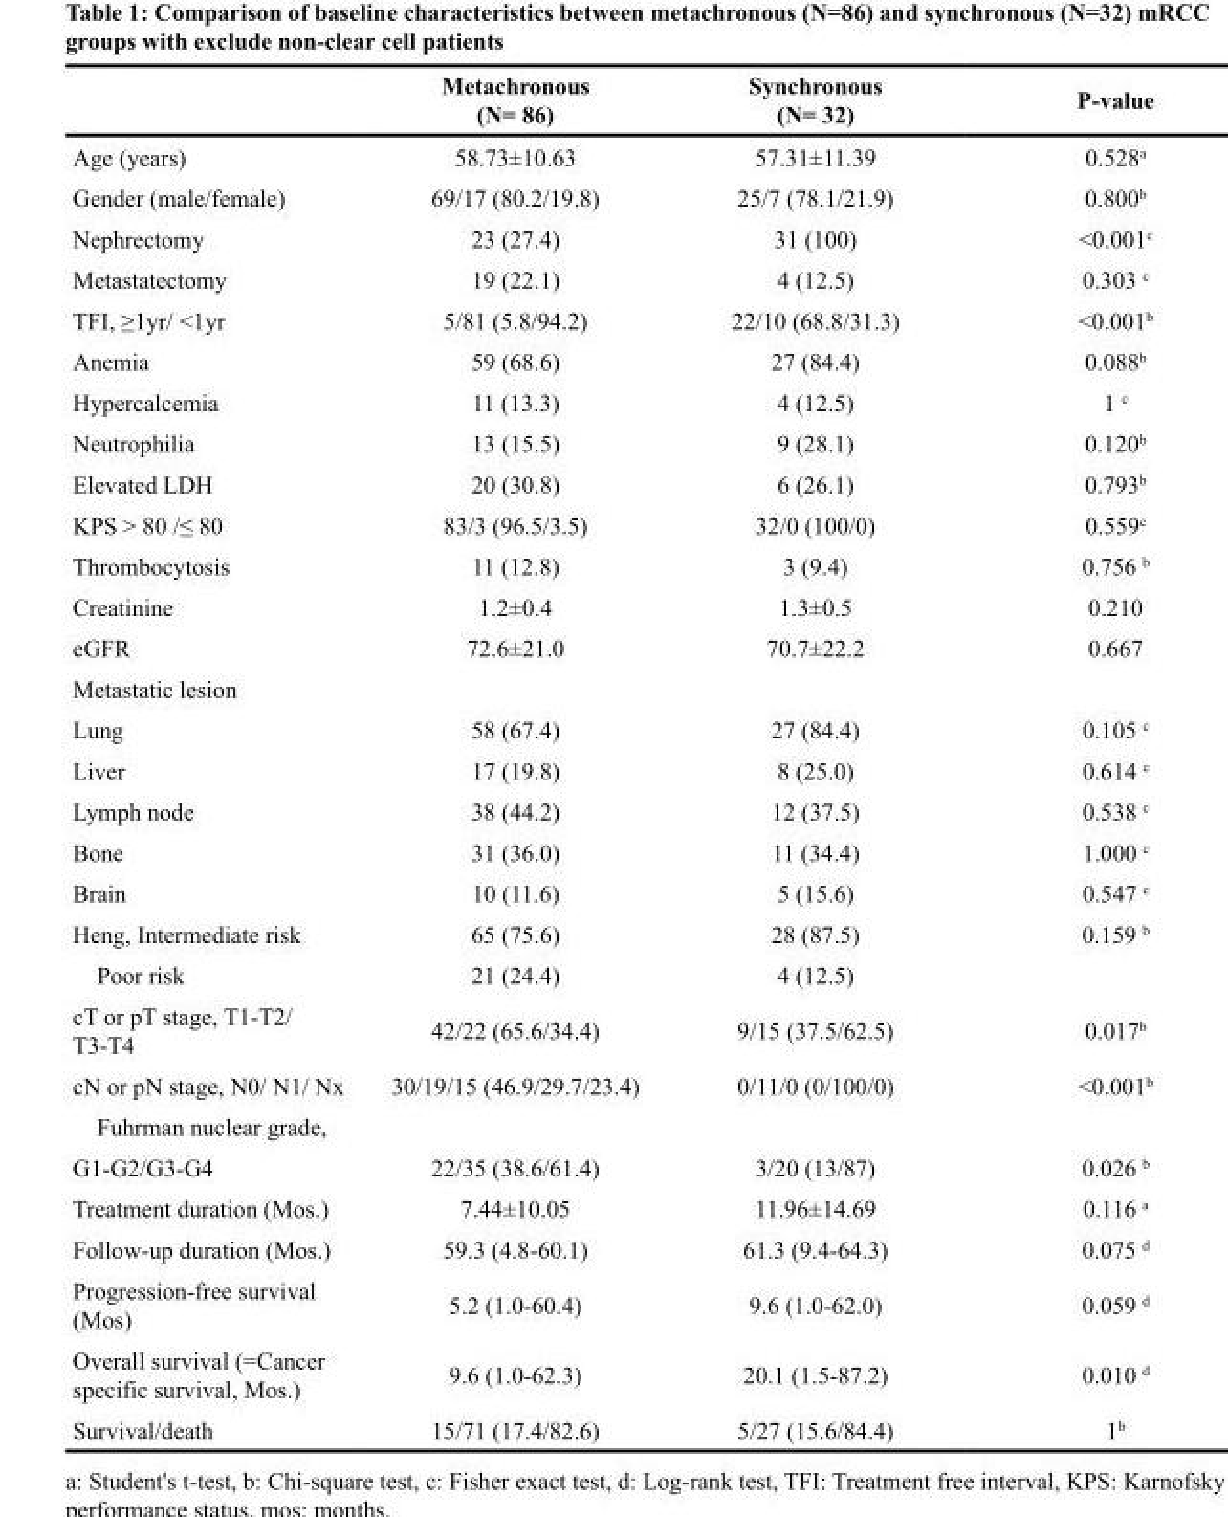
<table><thead><tr><td></td><td>Metachronous (N= 86)</td><td>Synchronous (N= 32)</td><td>P-value</td></tr></thead><tbody><tr><td>Age (years)</td><td>58.73±10.63</td><td>57.31±11.39</td><td>0.528<sup>a</sup></td></tr><tr><td>Gender (male/female)</td><td>69/17 (80.2/19.8)</td><td>25/7 (78.1/21.9)</td><td>0.800<sup>b</sup></td></tr><tr><td>Nephrectomy</td><td>23 (27.4)</td><td>31 (100)</td><td>&lt;0.001<sup>c</sup></td></tr><tr><td>Metastatectomy</td><td>19 (22.1)</td><td>4 (12.5)</td><td>0.303 <sup>c</sup></td></tr><tr><td>TFI, ≥1yr/ &lt;1yr</td><td>5/81 (5.8/94.2)</td><td>22/10 (68.8/31.3)</td><td>&lt;0.001<sup>b</sup></td></tr><tr><td>Anemia</td><td>59 (68.6)</td><td>27 (84.4)</td><td>0.088<sup>b</sup></td></tr><tr><td>Hypercalcemia</td><td>11 (13.3)</td><td>4 (12.5)</td><td>1 <sup>c</sup></td></tr><tr><td>Neutrophilia</td><td>13 (15.5)</td><td>9 (28.1)</td><td>0.120<sup>b</sup></td></tr><tr><td>Elevated LDH</td><td>20 (30.8)</td><td>6 (26.1)</td><td>0.793<sup>b</sup></td></tr><tr><td>KPS &gt; 80 /≤ 80</td><td>83/3 (96.5/3.5)</td><td>32/0 (100/0)</td><td>0.559<sup>c</sup></td></tr><tr><td>Thrombocytosis</td><td>11 (12.8)</td><td>3 (9.4)</td><td>0.756 <sup>b</sup></td></tr><tr><td>Creatinine</td><td>1.2±0.4</td><td>1.3±0.5</td><td>0.210</td></tr><tr><td>eGFR</td><td>72.6±21.0</td><td>70.7±22.2</td><td>0.667</td></tr><tr><td colspan="4">Metastatic lesion</td></tr><tr><td>Lung</td><td>58 (67.4)</td><td>27 (84.4)</td><td>0.105 <sup>c</sup></td></tr><tr><td>Liver</td><td>17 (19.8)</td><td>8 (25.0)</td><td>0.614 <sup>c</sup></td></tr><tr><td>Lymph node</td><td>38 (44.2)</td><td>12 (37.5)</td><td>0.538 <sup>c</sup></td></tr><tr><td>Bone</td><td>31 (36.0)</td><td>11 (34.4)</td><td>1.000 <sup>c</sup></td></tr><tr><td>Brain</td><td>10 (11.6)</td><td>5 (15.6)</td><td>0.547 <sup>c</sup></td></tr><tr><td>Heng, Intermediate risk</td><td>65 (75.6)</td><td>28 (87.5)</td><td>0.159 <sup>b</sup></td></tr><tr><td>Poor risk</td><td>21 (24.4)</td><td>4 (12.5)</td><td></td></tr><tr><td>cT or pT stage, T1-T2/ T3-T4</td><td>42/22 (65.6/34.4)</td><td>9/15 (37.5/62.5)</td><td>0.017<sup>b</sup></td></tr><tr><td>cN or pN stage, N0/ N1/ Nx</td><td>30/19/15 (46.9/29.7/23.4)</td><td>0/11/0 (0/100/0)</td><td>&lt;0.001<sup>b</sup></td></tr><tr><td colspan="4">Fuhrman nuclear grade,</td></tr><tr><td>G1-G2/G3-G4</td><td>22/35 (38.6/61.4)</td><td>3/20 (13/87)</td><td>0.026 <sup>b</sup></td></tr><tr><td>Treatment duration (Mos.)</td><td>7.44±10.05</td><td>11.96±14.69</td><td>0.116 <sup>a</sup></td></tr><tr><td>Follow-up duration (Mos.)</td><td>59.3 (4.8-60.1)</td><td>61.3 (9.4-64.3)</td><td>0.075 <sup>d</sup></td></tr><tr><td>Progression-free survival (Mos)</td><td>5.2 (1.0-60.4)</td><td>9.6 (1.0-62.0)</td><td>0.059 <sup>d</sup></td></tr><tr><td>Overall survival (=Cancer specific survival, Mos.)</td><td>9.6 (1.0-62.3)</td><td>20.1 (1.5-87.2)</td><td>0.010 <sup>d</sup></td></tr><tr><td>Survival/death</td><td>15/71 (17.4/82.6)</td><td>5/27 (15.6/84.4)</td><td>1<sup>b</sup></td></tr></tbody></table>